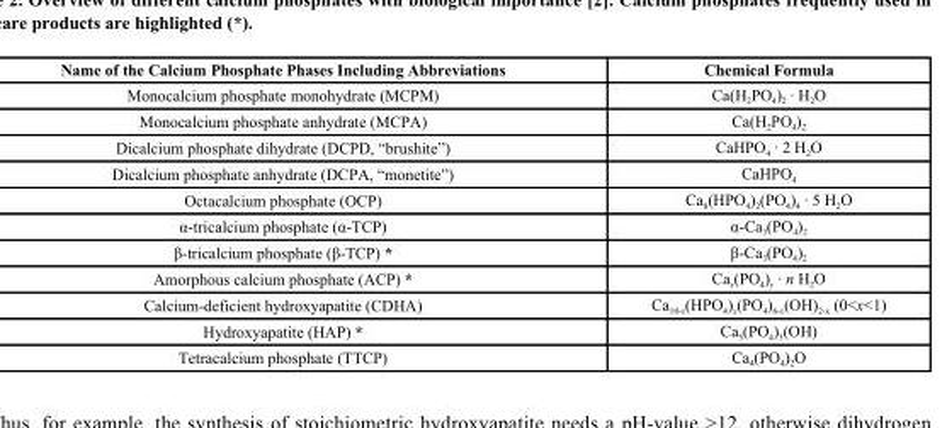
<table><thead><tr><td>Name of the Calcium Phosphate Phases Including Abbreviations</td><td>Chemical Formula</td></tr></thead><tbody><tr><td>Monocalcium phosphate monohydrate (MCPM)</td><td>Ca(H<sub>2</sub>PO<sub>4</sub>)<sub>2</sub> ∙ H<sub>2</sub>O</td></tr><tr><td>Monocalcium phosphate anhydrate (MCPA)</td><td>Ca(H<sub>2</sub>PO<sub>4</sub>)<sub>2</sub></td></tr><tr><td>Dicalcium phosphate dihydrate (DCPD, “brushite”)</td><td>CaHPO<sub>4</sub> ∙ 2 H<sub>2</sub>O</td></tr><tr><td>Dicalcium phosphate anhydrate (DCPA, “monetite”)</td><td>CaHPO<sub>4</sub></td></tr><tr><td>Octacalcium phosphate (OCP)</td><td>Ca<sub>8</sub>(HPO<sub>4</sub>)<sub>2</sub>(PO<sub>4</sub>)<sub>4</sub> ∙ 5 H<sub>2</sub>O</td></tr><tr><td>α-tricalcium phosphate (α-TCP)</td><td>α-Ca<sub>3</sub>(PO<sub>4</sub>)<sub>2</sub></td></tr><tr><td>β-tricalcium phosphate (β-TCP) *</td><td>β-Ca<sub>3</sub>(PO<sub>4</sub>)<sub>2</sub></td></tr><tr><td>Amorphous calcium phosphate (ACP) *</td><td>Ca<sub>x</sub>(PO<sub>4</sub>)<sub>y</sub> ∙ n H<sub>2</sub>O</td></tr><tr><td>Calcium-deficient hydroxyapatite (CDHA)</td><td>Ca<sub>10-x</sub>(HPO<sub>4</sub>)<sub>x</sub>(PO<sub>4</sub>)<sub>6-x</sub>(OH)<sub>2-x</sub> (0&lt;x&lt;1)</td></tr><tr><td>Hydroxyapatite (HAP) *</td><td>Ca<sub>5</sub>(PO<sub>4</sub>)<sub>3</sub>(OH)</td></tr><tr><td>Tetracalcium phosphate (TTCP)</td><td>Ca<sub>4</sub>(PO<sub>4</sub>)<sub>2</sub>O</td></tr></tbody></table>